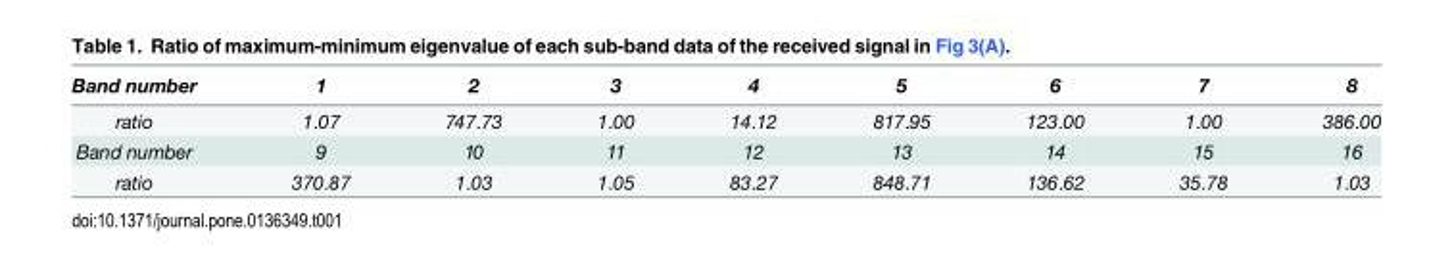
<table><thead><tr><td>Band number</td><td>1</td><td>2</td><td>3</td><td>4</td><td>5</td><td>6</td><td>7</td><td>8</td></tr></thead><tbody><tr><td>ratio</td><td>1.07</td><td>747.73</td><td>1.00</td><td>14.12</td><td>817.95</td><td>123.00</td><td>1.00</td><td>386.00</td></tr><tr><td>Band number</td><td>9</td><td>10</td><td>11</td><td>12</td><td>13</td><td>14</td><td>15</td><td>16</td></tr><tr><td>ratio</td><td>370.87</td><td>1.03</td><td>1.05</td><td>83.27</td><td>848.71</td><td>136.62</td><td>35.78</td><td>1.03</td></tr></tbody></table>